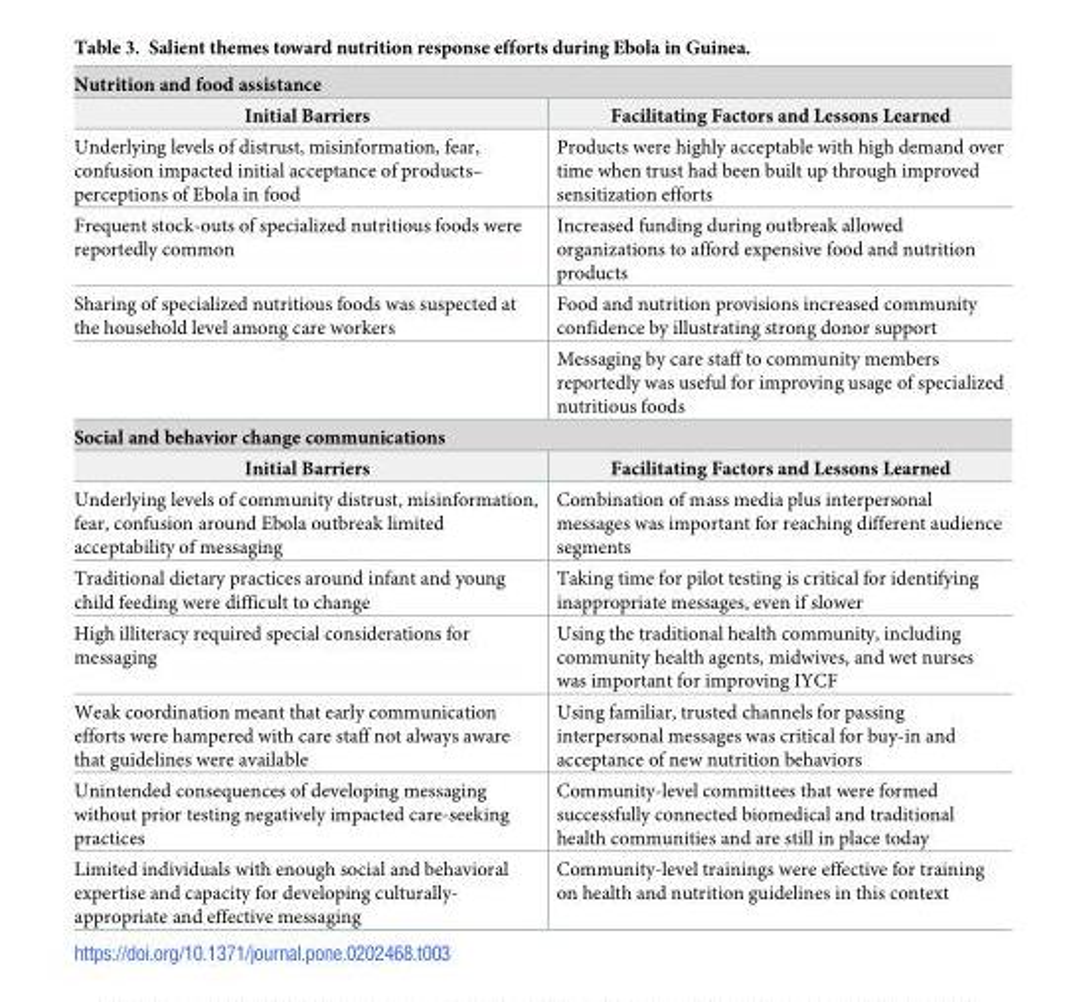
<table><tbody><tr><td colspan="2">Nutrition and food assistance</td></tr><tr><td>Initial Barriers</td><td>Facilitating Factors and Lessons Learned</td></tr><tr><td>Underlying levels of distrust, misinformation, fear, confusion impacted initial acceptance of products– perceptions of Ebola in food</td><td>Products were highly acceptable with high demand over time when trust had been built up through improved sensitization efforts</td></tr><tr><td>Frequent stock-outs of specialized nutritious foods were reportedly common</td><td>Increased funding during outbreak allowed organizations to afford expensive food and nutrition products</td></tr><tr><td rowspan="2">Sharing of specialized nutritious foods was suspected at the household level among care workers</td><td>Food and nutrition provisions increased community confidence by illustrating strong donor support</td></tr><tr><td>Messaging by care staff to community members reportedly was useful for improving usage of specialized nutritious foods</td></tr><tr><td colspan="2">Social and behavior change communications</td></tr><tr><td>Initial Barriers</td><td>Facilitating Factors and Lessons Learned</td></tr><tr><td>Underlying levels of community distrust, misinformation, fear, confusion around Ebola outbreak limited acceptability of messaging</td><td>Combination of mass media plus interpersonal messages was important for reaching different audience segments</td></tr><tr><td>Traditional dietary practices around infant and young child feeding were difficult to change</td><td>Taking time for pilot testing is critical for identifying inappropriate messages, even if slower</td></tr><tr><td>High illiteracy required special considerations for messaging</td><td>Using the traditional health community, including community health agents, midwives, and wet nurses was important for improving IYCF</td></tr><tr><td>Weak coordination meant that early communication efforts were hampered with care staff not always aware that guidelines were available</td><td>Using familiar, trusted channels for passing interpersonal messages was critical for buy-in and acceptance of new nutrition behaviors</td></tr><tr><td>Unintended consequences of developing messaging without prior testing negatively impacted care-seeking practices</td><td>Community-level committees that were formed successfully connected biomedical and traditional health communities and are still in place today</td></tr><tr><td>Limited individuals with enough social and behavioral expertise and capacity for developing culturally- appropriate and effective messaging</td><td>Community-level trainings were effective for training on health and nutrition guidelines in this context</td></tr></tbody></table>